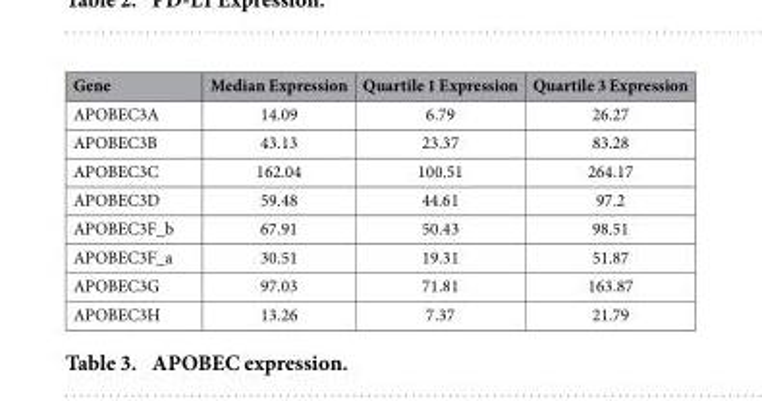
<table><thead><tr><td>Gene</td><td>Median Expression</td><td>Quartile 1 Expression</td><td>Quartile 3 Expression</td></tr></thead><tbody><tr><td>APOBEC3A</td><td>14.09</td><td>6.79</td><td>26.27</td></tr><tr><td>APOBEC3B</td><td>43.13</td><td>23.37</td><td>83.28</td></tr><tr><td>APOBEC3C</td><td>162.04</td><td>100.51</td><td>264.17</td></tr><tr><td>APOBEC3D</td><td>59.48</td><td>44.61</td><td>97.2</td></tr><tr><td>APOBEC3F_b</td><td>67.91</td><td>50.43</td><td>98.51</td></tr><tr><td>APOBEC3F_a</td><td>30.51</td><td>19.31</td><td>51.87</td></tr><tr><td>APOBEC3G</td><td>97.03</td><td>71.81</td><td>163.87</td></tr><tr><td>APOBEC3H</td><td>13.26</td><td>7.37</td><td>21.79</td></tr></tbody></table>